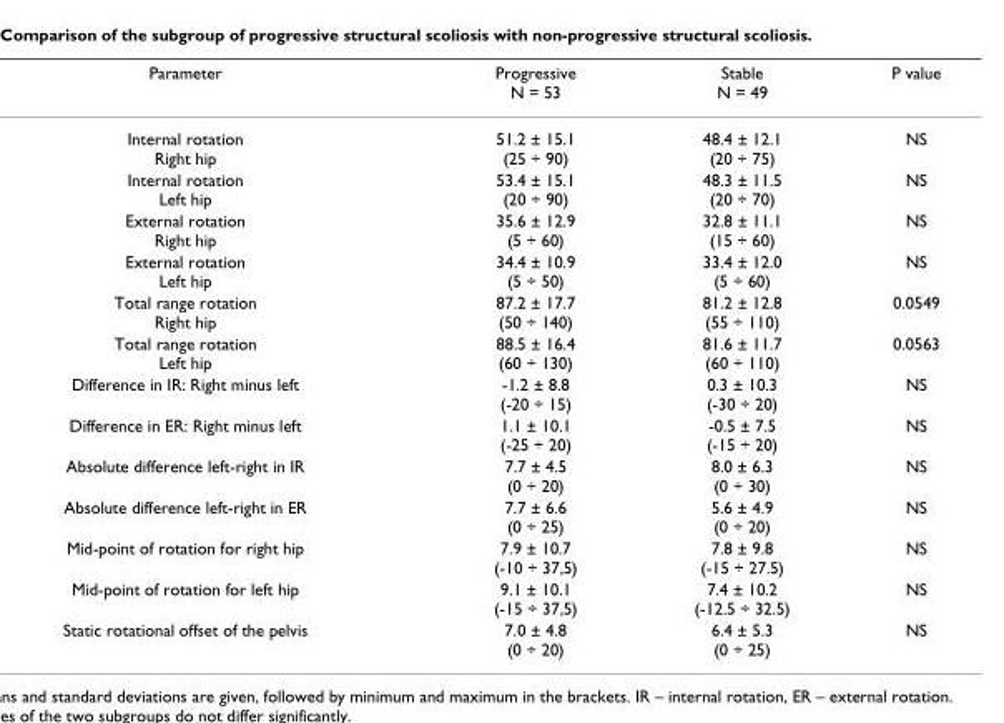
<table><thead><tr><td>Parameter</td><td>Progressive N = 53</td><td>Stable N = 49</td><td>P value</td></tr></thead><tbody><tr><td>Internal rotation Right hip</td><td>51.2 ± 15.1 (25 ÷ 90)</td><td>48.4 ± 12.1 (20 ÷ 75)</td><td>NS</td></tr><tr><td>Internal rotation Left hip</td><td>53.4 ± 15.1 (20 ÷ 90)</td><td>48.3 ± 11.5 (20 ÷ 70)</td><td>NS</td></tr><tr><td>External rotation Right hip</td><td>35.6 ± 12.9 (5 ÷ 60)</td><td>32.8 ± 11.1 (15 ÷ 60)</td><td>NS</td></tr><tr><td>External rotation Left hip</td><td>34.4 ± 10.9 (5 ÷ 50)</td><td>33.4 ± 12.0 (5 ÷ 60)</td><td>NS</td></tr><tr><td>Total range rotation Right hip</td><td>87.2 ± 17.7 (50 ÷ 140)</td><td>81.2 ± 12.8 (55 ÷ 110)</td><td>0.0549</td></tr><tr><td>Total range rotation Left hip</td><td>88.5 ± 16.4 (60 ÷ 130)</td><td>81.6 ± 11.7 (60 ÷ 110)</td><td>0.0563</td></tr><tr><td>Difference in IR: Right minus left</td><td>-1.2 ± 8.8 (-20 ÷ 15)</td><td>0.3 ± 10.3 (-30 ÷ 20)</td><td>NS</td></tr><tr><td>Difference in ER: Right minus left</td><td>1.1 ± 10.1 (-25 ÷ 20)</td><td>-0.5 ± 7.5 (-15 ÷ 20)</td><td>NS</td></tr><tr><td>Absolute difference left-right in IR</td><td>7.7 ± 4.5 (0 ÷ 20)</td><td>8.0 ± 6.3 (0 ÷ 30)</td><td>NS</td></tr><tr><td>Absolute difference left-right in ER</td><td>7.7 ± 6.6 (0 ÷ 25)</td><td>5.6 ± 4.9 (0 ÷ 20)</td><td>NS</td></tr><tr><td>Mid-point of rotation for right hip</td><td>7.9 ± 10.7 (-10 ÷ 37,5)</td><td>7.8 ± 9.8 (-15 ÷ 27.5)</td><td>NS</td></tr><tr><td>Mid-point of rotation for left hip</td><td>9.1 ± 10.1 (-15 ÷ 37,5)</td><td>7.4 ± 10.2 (-12.5 ÷ 32.5)</td><td>NS</td></tr><tr><td>Static rotational offset of the pelvis</td><td>7.0 ± 4.8 (0 ÷ 20)</td><td>6.4 ± 5.3 (0 ÷ 25)</td><td>NS</td></tr></tbody></table>